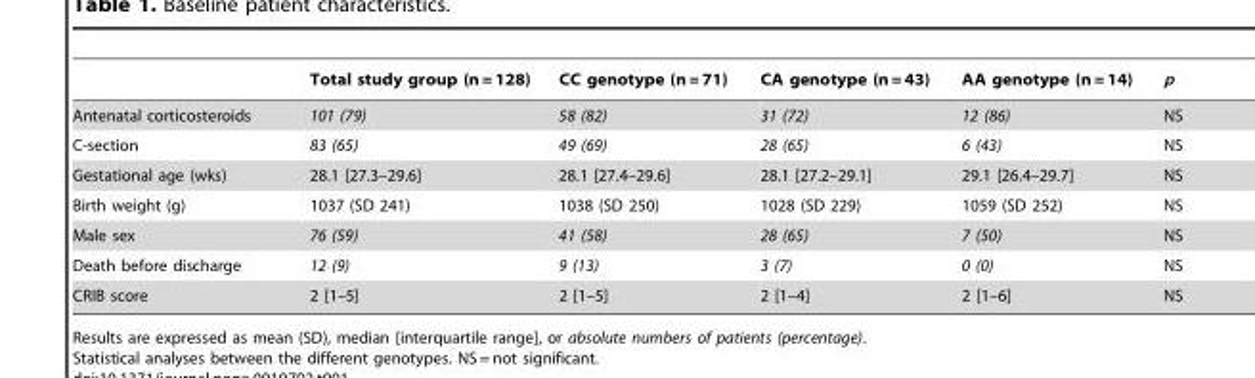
<table><thead><tr><td></td><td>Total study group (n = 128)</td><td>CC genotype (n = 71)</td><td>CA genotype (n = 43)</td><td>AA genotype (n = 14)</td><td>p</td></tr></thead><tbody><tr><td>Antenatal corticosteroids</td><td>101 (79)</td><td>58 (82)</td><td>31 (72)</td><td>12 (86)</td><td>NS</td></tr><tr><td>C-section</td><td>83 (65)</td><td>49 (69)</td><td>28 (65)</td><td>6 (43)</td><td>NS</td></tr><tr><td>Gestational age (wks)</td><td>28.1 [27.3–29.6]</td><td>28.1 [27.4–29.6]</td><td>28.1 [27.2–29.1]</td><td>29.1 [26.4–29.7]</td><td>NS</td></tr><tr><td>Birth weight (g)</td><td>1037 (SD 241)</td><td>1038 (SD 250)</td><td>1028 (SD 229)</td><td>1059 (SD 252)</td><td>NS</td></tr><tr><td>Male sex</td><td>76 (59)</td><td>41 (58)</td><td>28 (65)</td><td>7 (50)</td><td>NS</td></tr><tr><td>Death before discharge</td><td>12 (9)</td><td>9 (13)</td><td>3 (7)</td><td>0 (0)</td><td>NS</td></tr><tr><td>CRIB score</td><td>2 [1–5]</td><td>2 [1–5]</td><td>2 [1–4]</td><td>2 [1–6]</td><td>NS</td></tr></tbody></table>